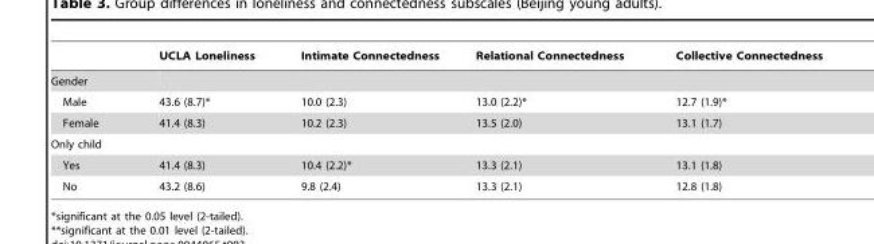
<table><thead><tr><td></td><td>UCLA Loneliness</td><td>Intimate Connectedness</td><td>Relational Connectedness</td><td>Collective Connectedness</td></tr></thead><tbody><tr><td colspan="5">Gender</td></tr><tr><td>Male</td><td>43.6 (8.7)*</td><td>10.0 (2.3)</td><td>13.0 (2.2)*</td><td>12.7 (1.9)*</td></tr><tr><td>Female</td><td>41.4 (8.3)</td><td>10.2 (2.3)</td><td>13.5 (2.0)</td><td>13.1 (1.7)</td></tr><tr><td colspan="5">Only child</td></tr><tr><td>Yes</td><td>41.4 (8.3)</td><td>10.4 (2.2)*</td><td>13.3 (2.1)</td><td>13.1 (1.8)</td></tr><tr><td>No</td><td>43.2 (8.6)</td><td>9.8 (2.4)</td><td>13.3 (2.1)</td><td>12.8 (1.8)</td></tr></tbody></table>